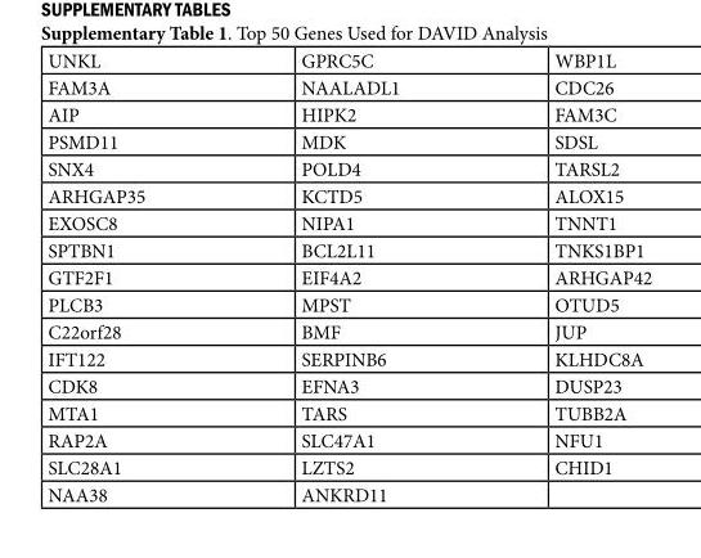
<table><tbody><tr><td>UNKL</td><td>GPRC5C</td><td>WBP1L</td></tr><tr><td>FAM3A</td><td>NAALADL1</td><td>CDC26</td></tr><tr><td>AIP</td><td>HIPK2</td><td>FAM3C</td></tr><tr><td>PSMD11</td><td>MDK</td><td>SDSL</td></tr><tr><td>SNX4</td><td>POLD4</td><td>TARSL2</td></tr><tr><td>ARHGAP35</td><td>KCTD5</td><td>ALOX15</td></tr><tr><td>EXOSC8</td><td>NIPA1</td><td>TNNT1</td></tr><tr><td>SPTBN1</td><td>BCL2L11</td><td>TNKS1BP1</td></tr><tr><td>GTF2F1</td><td>EIF4A2</td><td>ARHGAP42</td></tr><tr><td>PLCB3</td><td>MPST</td><td>OTUD5</td></tr><tr><td>C22orf28</td><td>BMF</td><td>JUP</td></tr><tr><td>IFT122</td><td>SERPINB6</td><td>KLHDC8A</td></tr><tr><td>CDK8</td><td>EFNA3</td><td>DUSP23</td></tr><tr><td>MTA1</td><td>TARS</td><td>TUBB2A</td></tr><tr><td>RAP2A</td><td>SLC47A1</td><td>NFU1</td></tr><tr><td>SLC28A1</td><td>LZTS2</td><td>CHID1</td></tr><tr><td>NAA38</td><td>ANKRD11</td><td></td></tr></tbody></table>